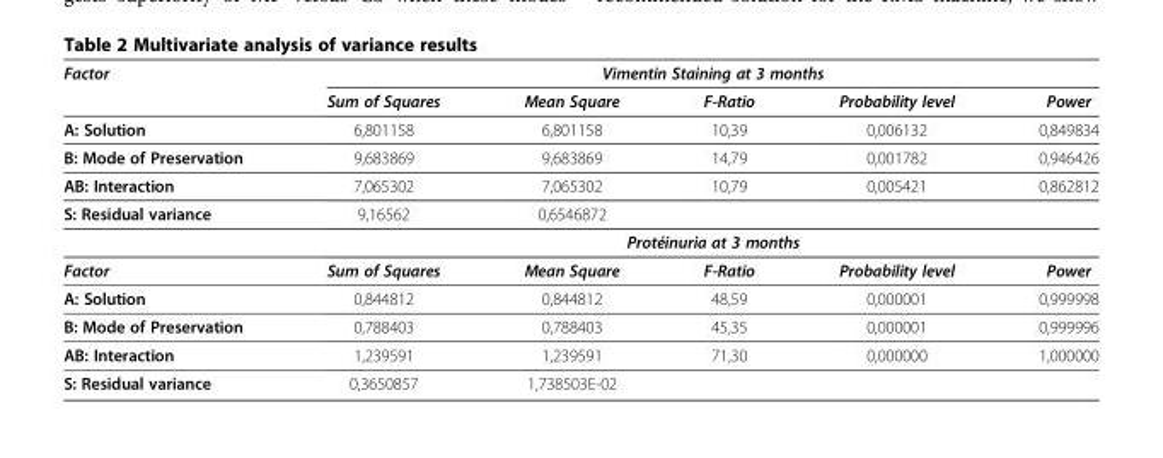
<table><thead><tr><td rowspan="2">Factor</td><td colspan="5">Vimentin Staining at 3 months</td></tr><tr><td>Sum of Squares</td><td>Mean Square</td><td>F-Ratio</td><td>Probability level</td><td>Power</td></tr></thead><tbody><tr><td>A: Solution</td><td>6,801158</td><td>6,801158</td><td>10,39</td><td>0,006132</td><td>0,849834</td></tr><tr><td>B: Mode of Preservation</td><td>9,683869</td><td>9,683869</td><td>14,79</td><td>0,001782</td><td>0,946426</td></tr><tr><td>AB: Interaction</td><td>7,065302</td><td>7,065302</td><td>10,79</td><td>0,005421</td><td>0,862812</td></tr><tr><td rowspan="2">S: Residual variance</td><td>9,16562</td><td>0,6546872</td><td></td><td></td><td></td></tr><tr><td colspan="5">Protéinuria at 3 months</td></tr><tr><td>Factor</td><td>Sum of Squares</td><td>Mean Square</td><td>F-Ratio</td><td>Probability level</td><td>Power</td></tr><tr><td>A: Solution</td><td>0,844812</td><td>0,844812</td><td>48,59</td><td>0,000001</td><td>0,999998</td></tr><tr><td>B: Mode of Preservation</td><td>0,788403</td><td>0,788403</td><td>45,35</td><td>0,000001</td><td>0,999996</td></tr><tr><td>AB: Interaction</td><td>1,239591</td><td>1,239591</td><td>71,30</td><td>0,000000</td><td>1,000000</td></tr><tr><td>S: Residual variance</td><td>0,3650857</td><td>1,738503E-02</td><td></td><td></td><td></td></tr></tbody></table>